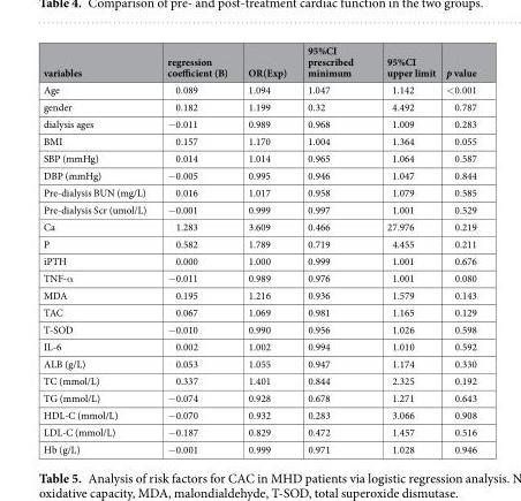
<table><thead><tr><td>variables</td><td>regression coefficient (B)</td><td>OR(Exp)</td><td>95%CI prescribed minimum</td><td>95%CI upper limit</td><td>p value</td></tr></thead><tbody><tr><td>Age</td><td>0.089</td><td>1.094</td><td>1.047</td><td>1.142</td><td>&lt;0.001</td></tr><tr><td>gender</td><td>0.182</td><td>1.199</td><td>0.32</td><td>4.492</td><td>0.787</td></tr><tr><td>dialysis ages</td><td>−0.011</td><td>0.989</td><td>0.968</td><td>1.009</td><td>0.283</td></tr><tr><td>BMI</td><td>0.157</td><td>1.170</td><td>1.004</td><td>1.364</td><td>0.055</td></tr><tr><td>SBP (mmHg)</td><td>0.014</td><td>1.014</td><td>0.965</td><td>1.064</td><td>0.587</td></tr><tr><td>DBP (mmHg)</td><td>−0.005</td><td>0.995</td><td>0.946</td><td>1.047</td><td>0.844</td></tr><tr><td>Pre-dialysis BUN (mg/L)</td><td>0.016</td><td>1.017</td><td>0.958</td><td>1.079</td><td>0.585</td></tr><tr><td>Pre-dialysis Scr (umol/L)</td><td>−0.001</td><td>0.999</td><td>0.997</td><td>1.001</td><td>0.529</td></tr><tr><td>Ca</td><td>1.283</td><td>3.609</td><td>0.466</td><td>27.976</td><td>0.219</td></tr><tr><td>P</td><td>0.582</td><td>1.789</td><td>0.719</td><td>4.455</td><td>0.211</td></tr><tr><td>iPTH</td><td>0.000</td><td>1.000</td><td>0.999</td><td>1.001</td><td>0.676</td></tr><tr><td>TNF-α</td><td>−0.011</td><td>0.989</td><td>0.976</td><td>1.001</td><td>0.080</td></tr><tr><td>MDA</td><td>0.195</td><td>1.216</td><td>0.936</td><td>1.579</td><td>0.143</td></tr><tr><td>TAC</td><td>0.067</td><td>1.069</td><td>0.981</td><td>1.165</td><td>0.129</td></tr><tr><td>T-SOD</td><td>−0.010</td><td>0.990</td><td>0.956</td><td>1.026</td><td>0.598</td></tr><tr><td>IL-6</td><td>0.002</td><td>1.002</td><td>0.994</td><td>1.010</td><td>0.592</td></tr><tr><td>ALB (g/L)</td><td>0.053</td><td>1.055</td><td>0.947</td><td>1.174</td><td>0.330</td></tr><tr><td>TC (mmol/L)</td><td>0.337</td><td>1.401</td><td>0.844</td><td>2.325</td><td>0.192</td></tr><tr><td>TG (mmol/L)</td><td>−0.074</td><td>0.928</td><td>0.678</td><td>1.271</td><td>0.643</td></tr><tr><td>HDL-C (mmol/L)</td><td>−0.070</td><td>0.932</td><td>0.283</td><td>3.066</td><td>0.908</td></tr><tr><td>LDL-C (mmol/L)</td><td>−0.187</td><td>0.829</td><td>0.472</td><td>1.457</td><td>0.516</td></tr><tr><td>Hb (g/L)</td><td>−0.001</td><td>0.999</td><td>0.971</td><td>1.028</td><td>0.946</td></tr></tbody></table>